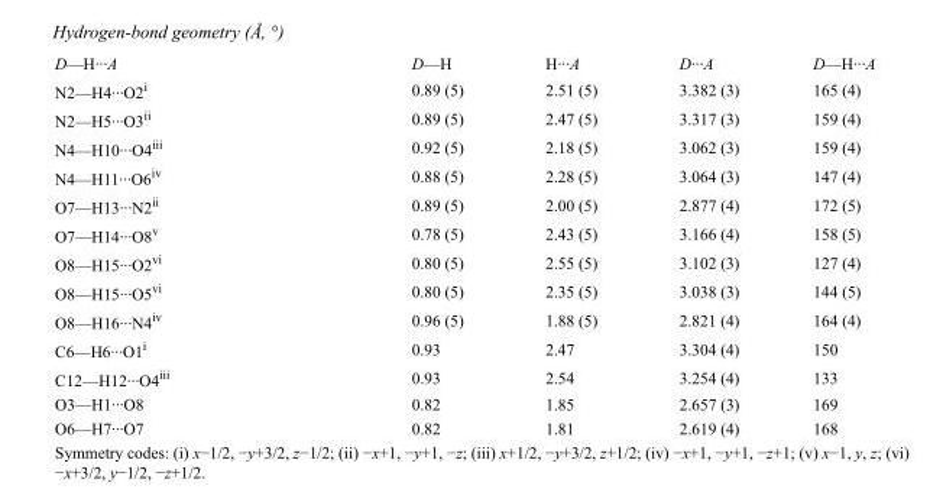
<table><tbody><tr><td>D—H···A</td><td>D—H</td><td>H···A</td><td>D···A</td><td>D—H···A</td></tr><tr><td>N2—H4···O2<sup>i</sup></td><td>0.89 (5)</td><td>2.51 (5)</td><td>3.382 (3)</td><td>165 (4)</td></tr><tr><td>N2—H5···O3<sup>ii</sup></td><td>0.89 (5)</td><td>2.47 (5)</td><td>3.317 (3)</td><td>159 (4)</td></tr><tr><td>N4—H10···O4<sup>iii</sup></td><td>0.92 (5)</td><td>2.18 (5)</td><td>3.062 (3)</td><td>159 (4)</td></tr><tr><td>N4—H11···O6<sup>iv</sup></td><td>0.88 (5)</td><td>2.28 (5)</td><td>3.064 (3)</td><td>147 (4)</td></tr><tr><td>O7—H13···N2<sup>ii</sup></td><td>0.89 (5)</td><td>2.00 (5)</td><td>2.877 (4)</td><td>172 (5)</td></tr><tr><td>O7—H14···O8<sup>v</sup></td><td>0.78 (5)</td><td>2.43 (5)</td><td>3.166 (4)</td><td>158 (5)</td></tr><tr><td>O8—H15···O2<sup>vi</sup></td><td>0.80 (5)</td><td>2.55 (5)</td><td>3.102 (3)</td><td>127 (4)</td></tr><tr><td>O8—H15···O5<sup>vi</sup></td><td>0.80 (5)</td><td>2.35 (5)</td><td>3.038 (3)</td><td>144 (5)</td></tr><tr><td>O8—H16···N4<sup>iv</sup></td><td>0.96 (5)</td><td>1.88 (5)</td><td>2.821 (4)</td><td>164 (4)</td></tr><tr><td>C6—H6···O1<sup>i</sup></td><td>0.93</td><td>2.47</td><td>3.304 (4)</td><td>150</td></tr><tr><td>C12—H12···O4<sup>iii</sup></td><td>0.93</td><td>2.54</td><td>3.254 (4)</td><td>133</td></tr><tr><td>O3—H1···O8</td><td>0.82</td><td>1.85</td><td>2.657 (3)</td><td>169</td></tr><tr><td>O6—H7···O7</td><td>0.82</td><td>1.81</td><td>2.619 (4)</td><td>168</td></tr></tbody></table>